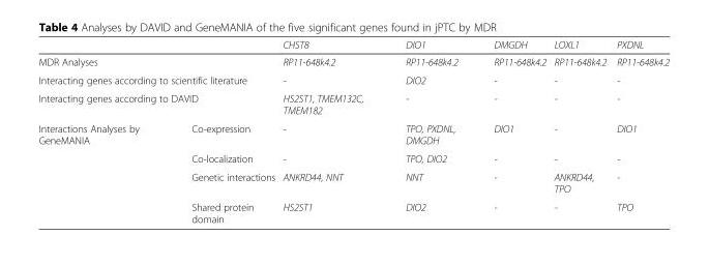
<table><thead><tr><td></td><td></td><td>CHST8</td><td>DIO1</td><td>DMGDH</td><td>LOXL1</td><td>PXDNL</td></tr></thead><tbody><tr><td colspan="2">MDR Analyses</td><td>RP11-648k4.2</td><td>RP11-648k4.2</td><td>RP11-648k4.2</td><td>RP11-648k4.2</td><td>RP11-648k4.2</td></tr><tr><td colspan="2">Interacting genes according to scientific literature</td><td>-</td><td>DIO2</td><td>-</td><td>-</td><td>-</td></tr><tr><td colspan="2">Interacting genes according to DAVID</td><td>HS2ST1, TMEM132C, TMEM182</td><td>-</td><td>-</td><td>-</td><td>-</td></tr><tr><td rowspan="4">Interactions Analyses by GeneMANIA</td><td>Co-expression</td><td>-</td><td>TPO, PXDNL, DMGDH</td><td>DIO1</td><td>-</td><td>DIO1</td></tr><tr><td>Co-localization</td><td>-</td><td>TPO, DIO2</td><td>-</td><td>-</td><td>-</td></tr><tr><td>Genetic interactions</td><td>ANKRD44, NNT</td><td>NNT</td><td>-</td><td>ANKRD44, TPO</td><td>-</td></tr><tr><td>Shared protein domain</td><td>HS2ST1</td><td>DIO2</td><td>-</td><td>-</td><td>TPO</td></tr></tbody></table>